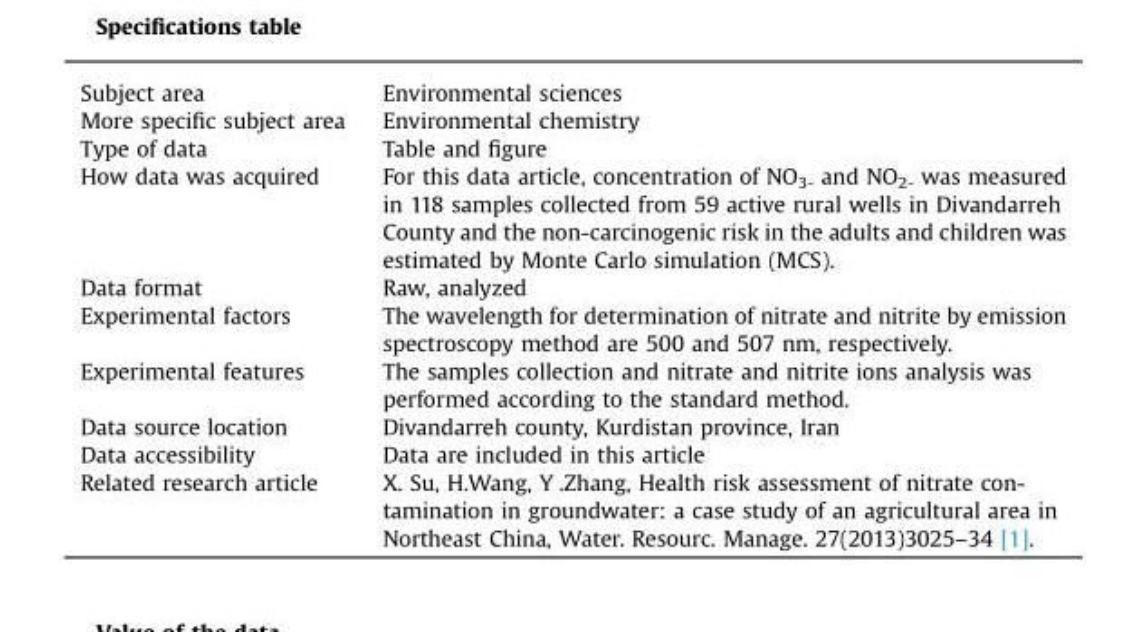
<table><tbody><tr><td>Subject area</td><td>Environmental sciences</td></tr><tr><td>More specific subject area</td><td>Environmental chemistry</td></tr><tr><td>Type of data</td><td>Table and figure</td></tr><tr><td>How data was acquired</td><td>For this data article, concentration of NO<sub>3-</sub> and NO<sub>2-</sub> was measured in 118 samples collected from 59 active rural wells in Divandarreh County and the non-carcinogenic risk in the adults and children was estimated by Monte Carlo simulation (MCS).</td></tr><tr><td>Data format</td><td>Raw, analyzed</td></tr><tr><td>Experimental factors</td><td>The wavelength for determination of nitrate and nitrite by emission spectroscopy method are 500 and 507 nm, respectively.</td></tr><tr><td>Experimental features</td><td>The samples collection and nitrate and nitrite ions analysis was performed according to the standard method.</td></tr><tr><td>Data source location</td><td>Divandarreh county, Kurdistan province, Iran</td></tr><tr><td>Data accessibility</td><td>Data are included in this article</td></tr><tr><td>Related research article</td><td>X. Su, H.Wang, Y .Zhang, Health risk assessment of nitrate con- tamination in groundwater: a case study of an agricultural area in Northeast China, Water. Resourc. Manage. 27(2013)3025–34 [1].</td></tr></tbody></table>